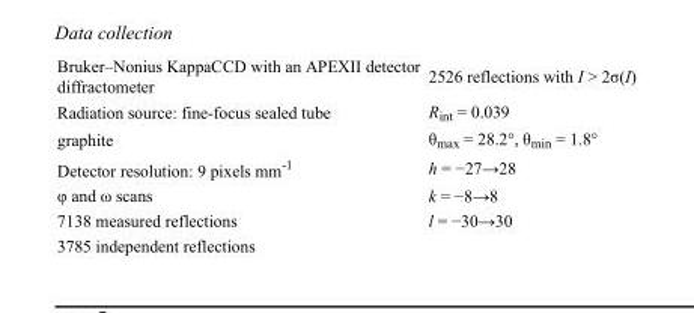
<table><tbody><tr><td>Bruker–Nonius KappaCCD with an APEXII detector diffractometer</td><td>2526 reflections with I &gt; 2σ(I)</td></tr><tr><td>Radiation source: fine-focus sealed tube</td><td>R<sub>int</sub> = 0.039</td></tr><tr><td>graphite</td><td>θ<sub>max</sub> = 28.2°, θ<sub>min</sub> = 1.8°</td></tr><tr><td>Detector resolution: 9 pixels mm<sup>-1</sup></td><td>h = −27→28</td></tr><tr><td>φ and ω scans</td><td>k = −8→8</td></tr><tr><td>7138 measured reflections</td><td>l = −30→30</td></tr><tr><td>3785 independent reflections</td><td></td></tr></tbody></table>